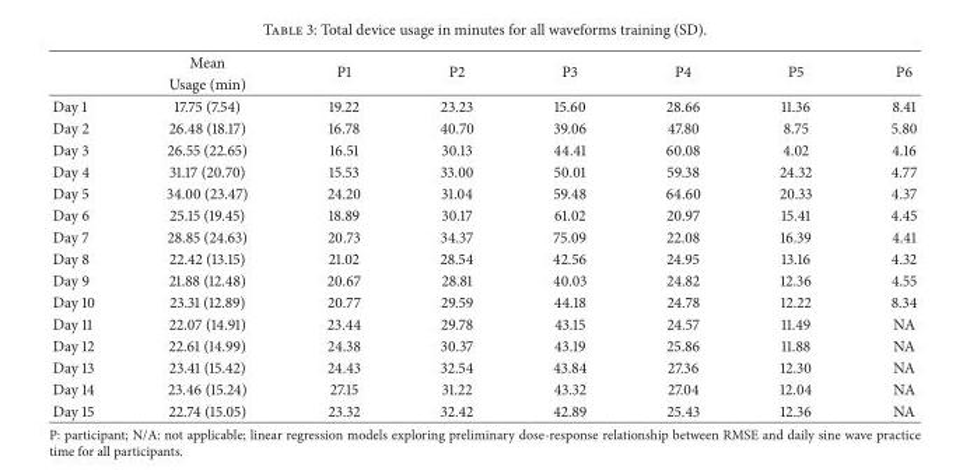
<table><thead><tr><td rowspan="2"></td><td rowspan="2">Mean Usage (min)</td><td rowspan="2">P1</td><td rowspan="2">P2</td><td rowspan="2">P3</td><td rowspan="2">P4</td><td rowspan="2">P5</td><td rowspan="2">P6</td></tr><tr></tr></thead><tbody><tr><td>Day 1</td><td>17.75 (7.54)</td><td>19.22</td><td>23.23</td><td>15.60</td><td>28.66</td><td>11.36</td><td>8.41</td></tr><tr><td>Day 2</td><td>26.48 (18.17)</td><td>16.78</td><td>40.70</td><td>39.06</td><td>47.80</td><td>8.75</td><td>5.80</td></tr><tr><td>Day 3</td><td>26.55 (22.65)</td><td>16.51</td><td>30.13</td><td>44.41</td><td>60.08</td><td>4.02</td><td>4.16</td></tr><tr><td>Day 4</td><td>31.17 (20.70)</td><td>15.53</td><td>33.00</td><td>50.01</td><td>59.38</td><td>24.32</td><td>4.77</td></tr><tr><td>Day 5</td><td>34.00 (23.47)</td><td>24.20</td><td>31.04</td><td>59.48</td><td>64.60</td><td>20.33</td><td>4.37</td></tr><tr><td>Day 6</td><td>25.15 (19.45)</td><td>18.89</td><td>30.17</td><td>61.02</td><td>20.97</td><td>15.41</td><td>4.45</td></tr><tr><td>Day 7</td><td>28.85 (24.63)</td><td>20.73</td><td>34.37</td><td>75.09</td><td>22.08</td><td>16.39</td><td>4.41</td></tr><tr><td>Day 8</td><td>22.42 (13.15)</td><td>21.02</td><td>28.54</td><td>42.56</td><td>24.95</td><td>13.16</td><td>4.32</td></tr><tr><td>Day 9</td><td>21.88 (12.48)</td><td>20.67</td><td>28.81</td><td>40.03</td><td>24.82</td><td>12.36</td><td>4.55</td></tr><tr><td>Day 10</td><td>23.31 (12.89)</td><td>20.77</td><td>29.59</td><td>44.18</td><td>24.78</td><td>12.22</td><td>8.34</td></tr><tr><td>Day 11</td><td>22.07 (14.91)</td><td>23.44</td><td>29.78</td><td>43.15</td><td>24.57</td><td>11.49</td><td>NA</td></tr><tr><td>Day 12</td><td>22.61 (14.99)</td><td>24.38</td><td>30.37</td><td>43.19</td><td>25.86</td><td>11.88</td><td>NA</td></tr><tr><td>Day 13</td><td>23.41 (15.42)</td><td>24.43</td><td>32.54</td><td>43.84</td><td>27.36</td><td>12.30</td><td>NA</td></tr><tr><td>Day 14</td><td>23.46 (15.24)</td><td>27.15</td><td>31.22</td><td>43.32</td><td>27.04</td><td>12.04</td><td>NA</td></tr><tr><td>Day 15</td><td>22.74 (15.05)</td><td>23.32</td><td>32.42</td><td>42.89</td><td>25.43</td><td>12.36</td><td>NA</td></tr></tbody></table>